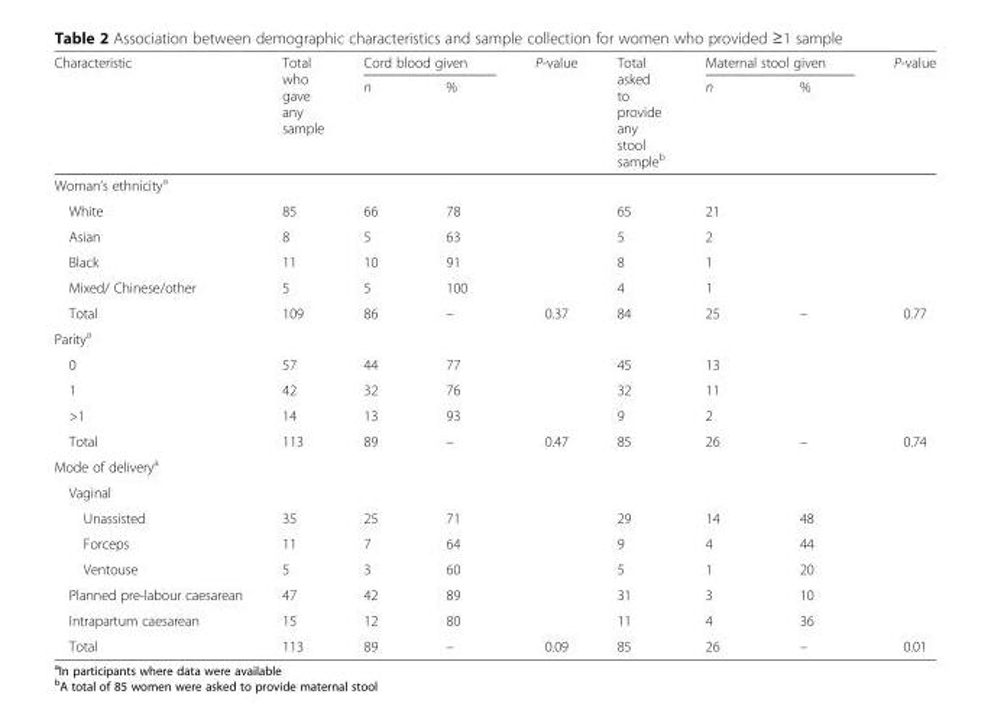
<table><thead><tr><td rowspan="2">Characteristic</td><td rowspan="2">Total who gave any sample</td><td colspan="2">Cord blood given</td><td rowspan="2">P-value</td><td rowspan="2">Total asked to provide any stool sample<sup>b</sup></td><td colspan="2">Maternal stool given</td><td rowspan="2">P-value</td></tr><tr><td>n</td><td>%</td><td>n</td><td>%</td></tr></thead><tbody><tr><td colspan="9">Woman’s ethnicity<sup>a</sup></td></tr><tr><td>White</td><td>85</td><td>66</td><td>78</td><td></td><td>65</td><td>21</td><td></td><td></td></tr><tr><td>Asian</td><td>8</td><td>5</td><td>63</td><td></td><td>5</td><td>2</td><td></td><td></td></tr><tr><td>Black</td><td>11</td><td>10</td><td>91</td><td></td><td>8</td><td>1</td><td></td><td></td></tr><tr><td>Mixed/ Chinese/other</td><td>5</td><td>5</td><td>100</td><td></td><td>4</td><td>1</td><td></td><td></td></tr><tr><td>Total</td><td>109</td><td>86</td><td>–</td><td>0.37</td><td>84</td><td>25</td><td>–</td><td>0.77</td></tr><tr><td colspan="9">Parity<sup>a</sup></td></tr><tr><td>0</td><td>57</td><td>44</td><td>77</td><td></td><td>45</td><td>13</td><td></td><td></td></tr><tr><td>1</td><td>42</td><td>32</td><td>76</td><td></td><td>32</td><td>11</td><td></td><td></td></tr><tr><td>&gt;1</td><td>14</td><td>13</td><td>93</td><td></td><td>9</td><td>2</td><td></td><td></td></tr><tr><td>Total</td><td>113</td><td>89</td><td>–</td><td>0.47</td><td>85</td><td>26</td><td>–</td><td>0.74</td></tr><tr><td colspan="9">Mode of delivery<sup>a</sup></td></tr><tr><td colspan="9">Vaginal</td></tr><tr><td>Unassisted</td><td>35</td><td>25</td><td>71</td><td></td><td>29</td><td>14</td><td>48</td><td></td></tr><tr><td>Forceps</td><td>11</td><td>7</td><td>64</td><td></td><td>9</td><td>4</td><td>44</td><td></td></tr><tr><td>Ventouse</td><td>5</td><td>3</td><td>60</td><td></td><td>5</td><td>1</td><td>20</td><td></td></tr><tr><td>Planned pre-labour caesarean</td><td>47</td><td>42</td><td>89</td><td></td><td>31</td><td>3</td><td>10</td><td></td></tr><tr><td>Intrapartum caesarean</td><td>15</td><td>12</td><td>80</td><td></td><td>11</td><td>4</td><td>36</td><td></td></tr><tr><td>Total</td><td>113</td><td>89</td><td>–</td><td>0.09</td><td>85</td><td>26</td><td>–</td><td>0.01</td></tr></tbody></table>